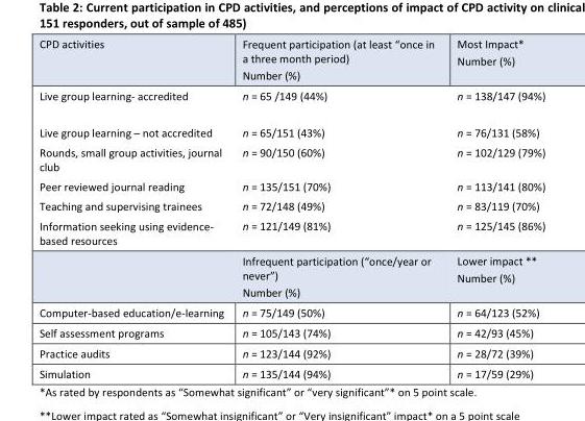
<table><thead><tr><td>CPD activities</td><td>Frequent participation (at least “once in a three month period) Number (%)</td><td>Most Impact* Number (%)</td></tr></thead><tbody><tr><td>Live group learning- accredited</td><td>n = 65 /149 (44%)</td><td>n = 138/147 (94%)</td></tr><tr><td>Live group learning – not accredited</td><td>n = 65/151 (43%)</td><td>n = 76/131 (58%)</td></tr><tr><td>Rounds, small group activities, journal club</td><td>n = 90/150 (60%)</td><td>n = 102/129 (79%)</td></tr><tr><td>Peer reviewed journal reading</td><td>n = 135/151 (70%)</td><td>n = 113/141 (80%)</td></tr><tr><td>Teaching and supervising trainees</td><td>n = 72/148 (49%)</td><td>n = 83/119 (70%)</td></tr><tr><td rowspan="2">Information seeking using evidence- based resources</td><td>n = 121/149 (81%)</td><td>n = 125/145 (86%)</td></tr><tr><td>Infrequent participation (“once/year or never”) Number (%)</td><td>Lower impact ** Number (%)</td></tr><tr><td>Computer-based education/e-learning</td><td>n = 75/149 (50%)</td><td>n = 64/123 (52%)</td></tr><tr><td>Self assessment programs</td><td>n = 105/143 (74%)</td><td>n = 42/93 (45%)</td></tr><tr><td>Practice audits</td><td>n = 123/144 (92%)</td><td>n = 28/72 (39%)</td></tr><tr><td>Simulation</td><td>n = 135/144 (94%)</td><td>n = 17/59 (29%)</td></tr></tbody></table>